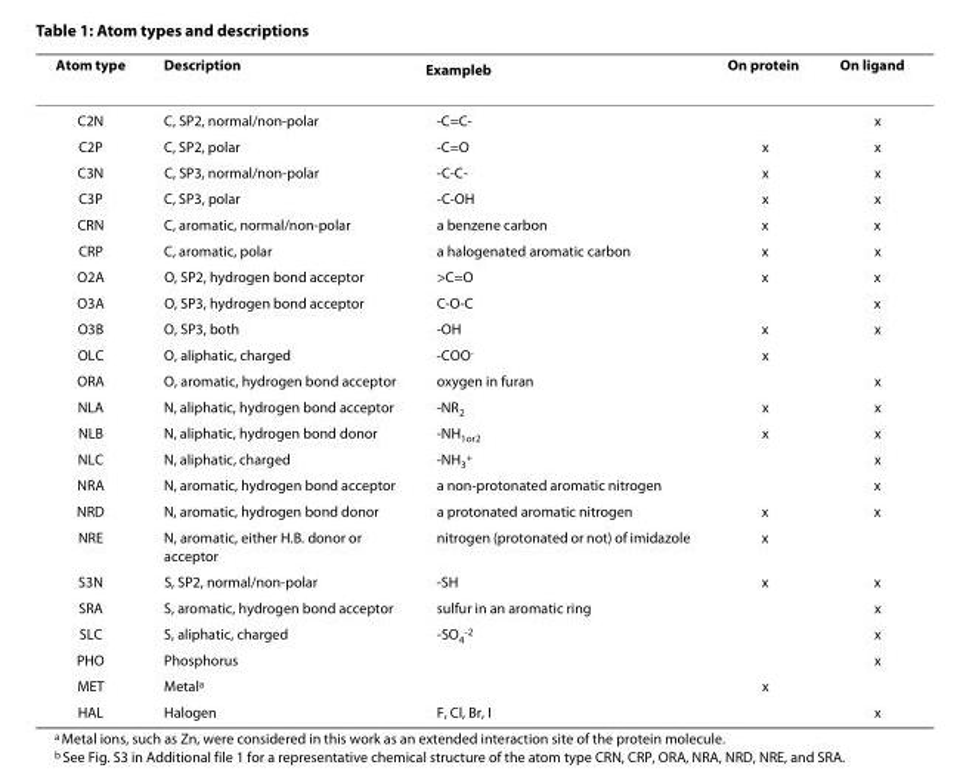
<table><thead><tr><td>Atom type</td><td>Description</td><td>Example<sup>b</sup></td><td>On protein</td><td>On ligand</td></tr></thead><tbody><tr><td>C2N</td><td>C, SP2, normal/non-polar</td><td>-C=C-</td><td></td><td>x</td></tr><tr><td>C2P</td><td>C, SP2, polar</td><td>-C=O</td><td>x</td><td>x</td></tr><tr><td>C3N</td><td>C, SP3, normal/non-polar</td><td>-C-C-</td><td>x</td><td>x</td></tr><tr><td>C3P</td><td>C, SP3, polar</td><td>-C-OH</td><td>x</td><td>x</td></tr><tr><td>CRN</td><td>C, aromatic, normal/non-polar</td><td>a benzene carbon</td><td>x</td><td>x</td></tr><tr><td>CRP</td><td>C, aromatic, polar</td><td>a halogenated aromatic carbon</td><td>x</td><td>x</td></tr><tr><td>O2A</td><td>O, SP2, hydrogen bond acceptor</td><td>&gt;C=O</td><td>x</td><td>x</td></tr><tr><td>O3A</td><td>O, SP3, hydrogen bond acceptor</td><td>C-O-C</td><td></td><td>x</td></tr><tr><td>O3B</td><td>O, SP3, both</td><td>-OH</td><td>x</td><td>x</td></tr><tr><td>OLC</td><td>O, aliphatic, charged</td><td>-COO<sup>-</sup></td><td>x</td><td></td></tr><tr><td>ORA</td><td>O, aromatic, hydrogen bond acceptor</td><td>oxygen in furan</td><td></td><td>x</td></tr><tr><td>NLA</td><td>N, aliphatic, hydrogen bond acceptor</td><td>-NR<sub>2</sub></td><td>x</td><td>x</td></tr><tr><td>NLB</td><td>N, aliphatic, hydrogen bond donor</td><td>-NH<sub>1or2</sub></td><td>x</td><td>x</td></tr><tr><td>NLC</td><td>N, aliphatic, charged</td><td>-NH<sub>3</sub><sup>+</sup></td><td></td><td>x</td></tr><tr><td>NRA</td><td>N, aromatic, hydrogen bond acceptor</td><td>a non-protonated aromatic nitrogen</td><td></td><td>x</td></tr><tr><td>NRD</td><td>N, aromatic, hydrogen bond donor</td><td>a protonated aromatic nitrogen</td><td>x</td><td>x</td></tr><tr><td>NRE</td><td>N, aromatic, either H.B. donor or acceptor</td><td>nitrogen (protonated or not) of imidazole</td><td>x</td><td></td></tr><tr><td>S3N</td><td>S, SP2, normal/non-polar</td><td>-SH</td><td>x</td><td>x</td></tr><tr><td>SRA</td><td>S, aromatic, hydrogen bond acceptor</td><td>sulfur in an aromatic ring</td><td></td><td>x</td></tr><tr><td>SLC</td><td>S, aliphatic, charged</td><td>-SO<sub>4</sub><sup>-2</sup></td><td></td><td>x</td></tr><tr><td>PHO</td><td>Phosphorus</td><td></td><td></td><td>x</td></tr><tr><td>MET</td><td>Metal<sup>a</sup></td><td></td><td>x</td><td></td></tr><tr><td>HAL</td><td>Halogen</td><td>F, Cl, Br, I</td><td></td><td>x</td></tr></tbody></table>